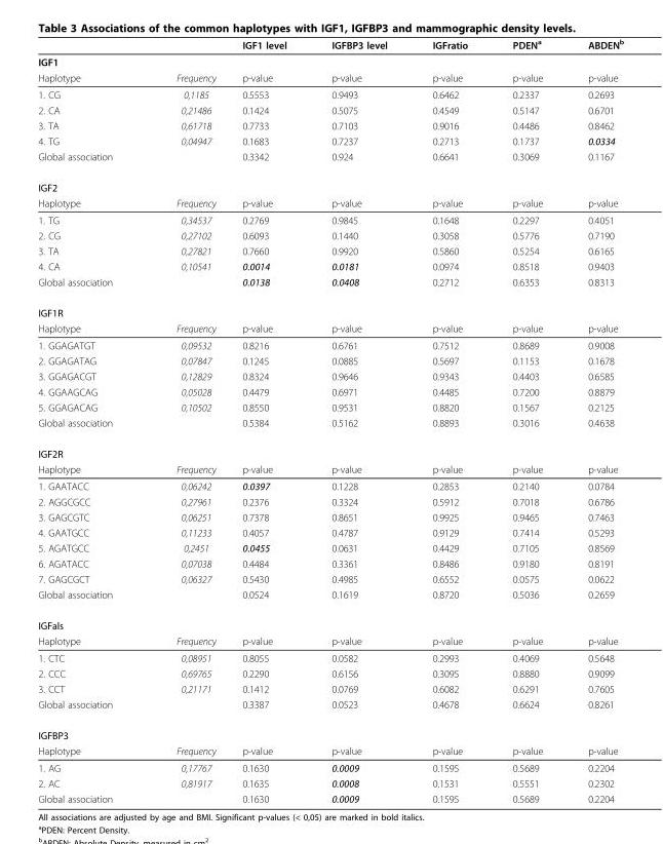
<table><thead><tr><td></td><td></td><td>IGF1 level</td><td>IGFBP3 level</td><td>IGFratio</td><td>PDEN<sup>a</sup></td><td>ABDEN<sup>b</sup></td></tr></thead><tbody><tr><td colspan="7">IGF1</td></tr><tr><td>Haplotype</td><td>Frequency</td><td>p-value</td><td>p-value</td><td>p-value</td><td>p-value</td><td>p-value</td></tr><tr><td>1. CG</td><td>0,1185</td><td>0.5553</td><td>0.9493</td><td>0.6462</td><td>0.2337</td><td>0.2693</td></tr><tr><td>2. CA</td><td>0,21486</td><td>0.1424</td><td>0.5075</td><td>0.4549</td><td>0.5147</td><td>0.6701</td></tr><tr><td>3. TA</td><td>0,61718</td><td>0.7733</td><td>0.7103</td><td>0.9016</td><td>0.4486</td><td>0.8462</td></tr><tr><td>4. TG</td><td>0,04947</td><td>0.1683</td><td>0.7237</td><td>0.2713</td><td>0.1737</td><td>0.0334</td></tr><tr><td>Global association</td><td></td><td>0.3342</td><td>0.924</td><td>0.6641</td><td>0.3069</td><td>0.1167</td></tr><tr><td colspan="7">IGF2</td></tr><tr><td>Haplotype</td><td>Frequency</td><td>p-value</td><td>p-value</td><td>p-value</td><td>p-value</td><td>p-value</td></tr><tr><td>1. TG</td><td>0,34537</td><td>0.2769</td><td>0.9845</td><td>0.1648</td><td>0.2297</td><td>0.4051</td></tr><tr><td>2. CG</td><td>0,27102</td><td>0.6093</td><td>0.1440</td><td>0.3058</td><td>0.5776</td><td>0.7190</td></tr><tr><td>3. TA</td><td>0,27821</td><td>0.7660</td><td>0.9920</td><td>0.5860</td><td>0.5254</td><td>0.6165</td></tr><tr><td>4. CA</td><td>0,10541</td><td>0.0014</td><td>0.0181</td><td>0.0974</td><td>0.8518</td><td>0.9403</td></tr><tr><td>Global association</td><td></td><td>0.0138</td><td>0.0408</td><td>0.2712</td><td>0.6353</td><td>0.8313</td></tr><tr><td colspan="7">IGF1R</td></tr><tr><td>Haplotype</td><td>Frequency</td><td>p-value</td><td>p-value</td><td>p-value</td><td>p-value</td><td>p-value</td></tr><tr><td>1. GGAGATGT</td><td>0,09532</td><td>0.8216</td><td>0.6761</td><td>0.7512</td><td>0.8689</td><td>0.9008</td></tr><tr><td>2. GGAGATAG</td><td>0,07847</td><td>0.1245</td><td>0.0885</td><td>0.5697</td><td>0.1153</td><td>0.1678</td></tr><tr><td>3. GGAGACGT</td><td>0,12829</td><td>0.8324</td><td>0.9646</td><td>0.9343</td><td>0.4403</td><td>0.6585</td></tr><tr><td>4. GGAAGCAG</td><td>0,05028</td><td>0.4479</td><td>0.6971</td><td>0.4485</td><td>0.7200</td><td>0.8879</td></tr><tr><td>5. GGAGACAG</td><td>0,10502</td><td>0.8550</td><td>0.9531</td><td>0.8820</td><td>0.1567</td><td>0.2125</td></tr><tr><td>Global association</td><td></td><td>0.5384</td><td>0.5162</td><td>0.8893</td><td>0.3016</td><td>0.4638</td></tr><tr><td colspan="7">IGF2R</td></tr><tr><td>Haplotype</td><td>Frequency</td><td>p-value</td><td>p-value</td><td>p-value</td><td>p-value</td><td>p-value</td></tr><tr><td>1. GAATACC</td><td>0,06242</td><td>0.0397</td><td>0.1228</td><td>0.2853</td><td>0.2140</td><td>0.0784</td></tr><tr><td>2. AGGCGCC</td><td>0,27961</td><td>0.2376</td><td>0.3324</td><td>0.5912</td><td>0.7018</td><td>0.6786</td></tr><tr><td>3. GAGCGTC</td><td>0,06251</td><td>0.7378</td><td>0.8651</td><td>0.9925</td><td>0.9465</td><td>0.7463</td></tr><tr><td>4. GAATGCC</td><td>0,11233</td><td>0.4057</td><td>0.4787</td><td>0.9129</td><td>0.7414</td><td>0.5293</td></tr><tr><td>5. AGATGCC</td><td>0,2451</td><td>0.0455</td><td>0.0631</td><td>0.4429</td><td>0.7105</td><td>0.8569</td></tr><tr><td>6. AGATACC</td><td>0,07038</td><td>0.4484</td><td>0.3361</td><td>0.8486</td><td>0.9180</td><td>0.8191</td></tr><tr><td>7. GAGCGCT</td><td>0,06327</td><td>0.5430</td><td>0.4985</td><td>0.6552</td><td>0.0575</td><td>0.0622</td></tr><tr><td>Global association</td><td></td><td>0.0524</td><td>0.1619</td><td>0.8720</td><td>0.5036</td><td>0.2659</td></tr><tr><td colspan="7">IGFals</td></tr><tr><td>Haplotype</td><td>Frequency</td><td>p-value</td><td>p-value</td><td>p-value</td><td>p-value</td><td>p-value</td></tr><tr><td>1. CTC</td><td>0,08951</td><td>0.8055</td><td>0.0582</td><td>0.2993</td><td>0.4069</td><td>0.5648</td></tr><tr><td>2. CCC</td><td>0,69765</td><td>0.2290</td><td>0.6156</td><td>0.3095</td><td>0.8880</td><td>0.9099</td></tr><tr><td>3. CCT</td><td>0,21171</td><td>0.1412</td><td>0.0769</td><td>0.6082</td><td>0.6291</td><td>0.7605</td></tr><tr><td>Global association</td><td></td><td>0.3387</td><td>0.0523</td><td>0.4678</td><td>0.6624</td><td>0.8261</td></tr><tr><td colspan="7">IGFBP3</td></tr><tr><td>Haplotype</td><td>Frequency</td><td>p-value</td><td>p-value</td><td>p-value</td><td>p-value</td><td>p-value</td></tr><tr><td>1. AG</td><td>0,17767</td><td>0.1630</td><td>0.0009</td><td>0.1595</td><td>0.5689</td><td>0.2204</td></tr><tr><td>2. AC</td><td>0,81917</td><td>0.1635</td><td>0.0008</td><td>0.1531</td><td>0.5551</td><td>0.2302</td></tr><tr><td>Global association</td><td></td><td>0.1630</td><td>0.0009</td><td>0.1595</td><td>0.5689</td><td>0.2204</td></tr></tbody></table>